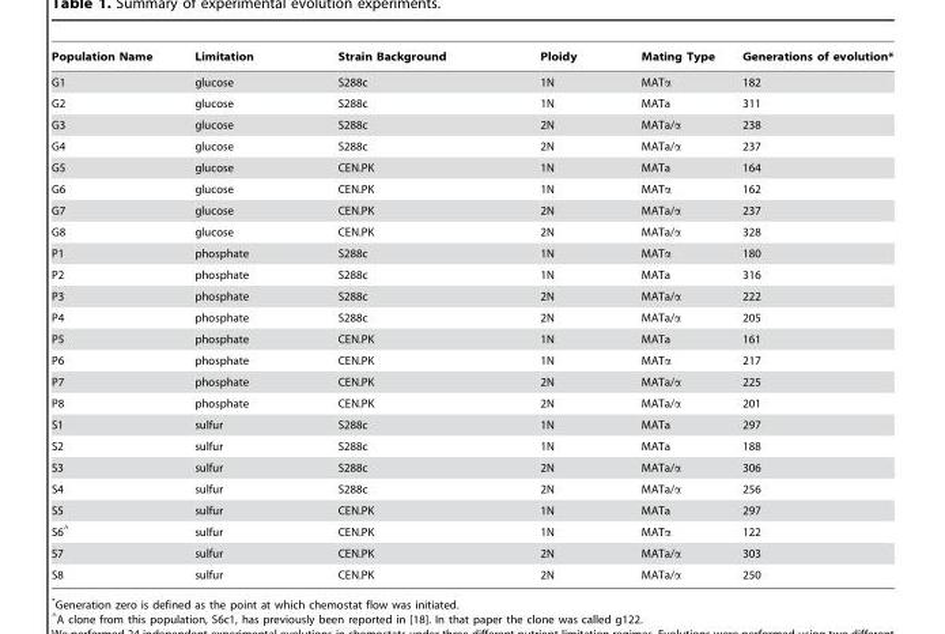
<table><thead><tr><td>Population Name</td><td>Limitation</td><td>Strain Background</td><td>Ploidy</td><td>Mating Type</td><td>Generations of evolution*</td></tr></thead><tbody><tr><td>G1</td><td>glucose</td><td>S288c</td><td>1N</td><td>MATα</td><td>182</td></tr><tr><td>G2</td><td>glucose</td><td>S288c</td><td>1N</td><td>MATa</td><td>311</td></tr><tr><td>G3</td><td>glucose</td><td>S288c</td><td>2N</td><td>MATa/α</td><td>238</td></tr><tr><td>G4</td><td>glucose</td><td>S288c</td><td>2N</td><td>MATa/α</td><td>237</td></tr><tr><td>G5</td><td>glucose</td><td>CEN.PK</td><td>1N</td><td>MATa</td><td>164</td></tr><tr><td>G6</td><td>glucose</td><td>CEN.PK</td><td>1N</td><td>MATα</td><td>162</td></tr><tr><td>G7</td><td>glucose</td><td>CEN.PK</td><td>2N</td><td>MATa/α</td><td>237</td></tr><tr><td>G8</td><td>glucose</td><td>CEN.PK</td><td>2N</td><td>MATa/α</td><td>328</td></tr><tr><td>P1</td><td>phosphate</td><td>S288c</td><td>1N</td><td>MATα</td><td>180</td></tr><tr><td>P2</td><td>phosphate</td><td>S288c</td><td>1N</td><td>MATa</td><td>316</td></tr><tr><td>P3</td><td>phosphate</td><td>S288c</td><td>2N</td><td>MATa/α</td><td>222</td></tr><tr><td>P4</td><td>phosphate</td><td>S288c</td><td>2N</td><td>MATa/α</td><td>205</td></tr><tr><td>P5</td><td>phosphate</td><td>CEN.PK</td><td>1N</td><td>MATa</td><td>161</td></tr><tr><td>P6</td><td>phosphate</td><td>CEN.PK</td><td>1N</td><td>MATα</td><td>217</td></tr><tr><td>P7</td><td>phosphate</td><td>CEN.PK</td><td>2N</td><td>MATa/α</td><td>225</td></tr><tr><td>P8</td><td>phosphate</td><td>CEN.PK</td><td>2N</td><td>MATa/α</td><td>201</td></tr><tr><td>S1</td><td>sulfur</td><td>S288c</td><td>1N</td><td>MATa</td><td>297</td></tr><tr><td>S2</td><td>sulfur</td><td>S288c</td><td>1N</td><td>MATa</td><td>188</td></tr><tr><td>S3</td><td>sulfur</td><td>S288c</td><td>2N</td><td>MATa/α</td><td>306</td></tr><tr><td>S4</td><td>sulfur</td><td>S288c</td><td>2N</td><td>MATa/α</td><td>256</td></tr><tr><td>S5</td><td>sulfur</td><td>CEN.PK</td><td>1N</td><td>MATa</td><td>297</td></tr><tr><td>S6^</td><td>sulfur</td><td>CEN.PK</td><td>1N</td><td>MATα</td><td>122</td></tr><tr><td>S7</td><td>sulfur</td><td>CEN.PK</td><td>2N</td><td>MATa/α</td><td>303</td></tr><tr><td>S8</td><td>sulfur</td><td>CEN.PK</td><td>2N</td><td>MATa/α</td><td>250</td></tr></tbody></table>